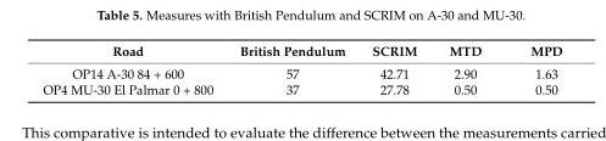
<table><thead><tr><td>Road</td><td>British Pendulum</td><td>SCRIM</td><td>MTD</td><td>MPD</td></tr></thead><tbody><tr><td>OP14 A-30 84 + 600</td><td>57</td><td>42.71</td><td>2.90</td><td>1.63</td></tr><tr><td>OP4 MU-30 El Palmar 0 + 800</td><td>37</td><td>27.78</td><td>0.50</td><td>0.50</td></tr></tbody></table>